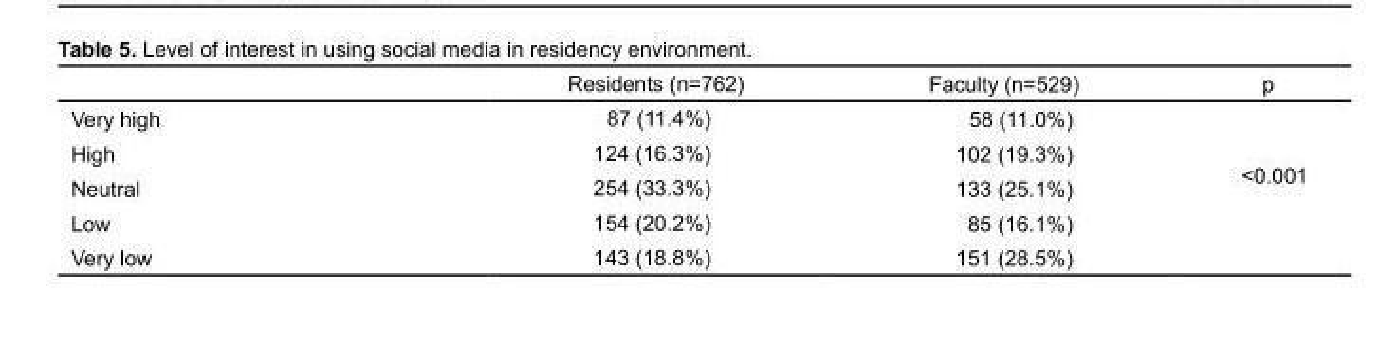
<table><thead><tr><td></td><td>Residents (n=762)</td><td>Faculty (n=529)</td><td>p</td></tr></thead><tbody><tr><td>Very high</td><td>87 (11.4%)</td><td>58 (11.0%)</td><td rowspan="5">&lt;0.001</td></tr><tr><td>High</td><td>124 (16.3%)</td><td>102 (19.3%)</td></tr><tr><td>Neutral</td><td>254 (33.3%)</td><td>133 (25.1%)</td></tr><tr><td>Low</td><td>154 (20.2%)</td><td>85 (16.1%)</td></tr><tr><td>Very low</td><td>143 (18.8%)</td><td>151 (28.5%)</td></tr></tbody></table>